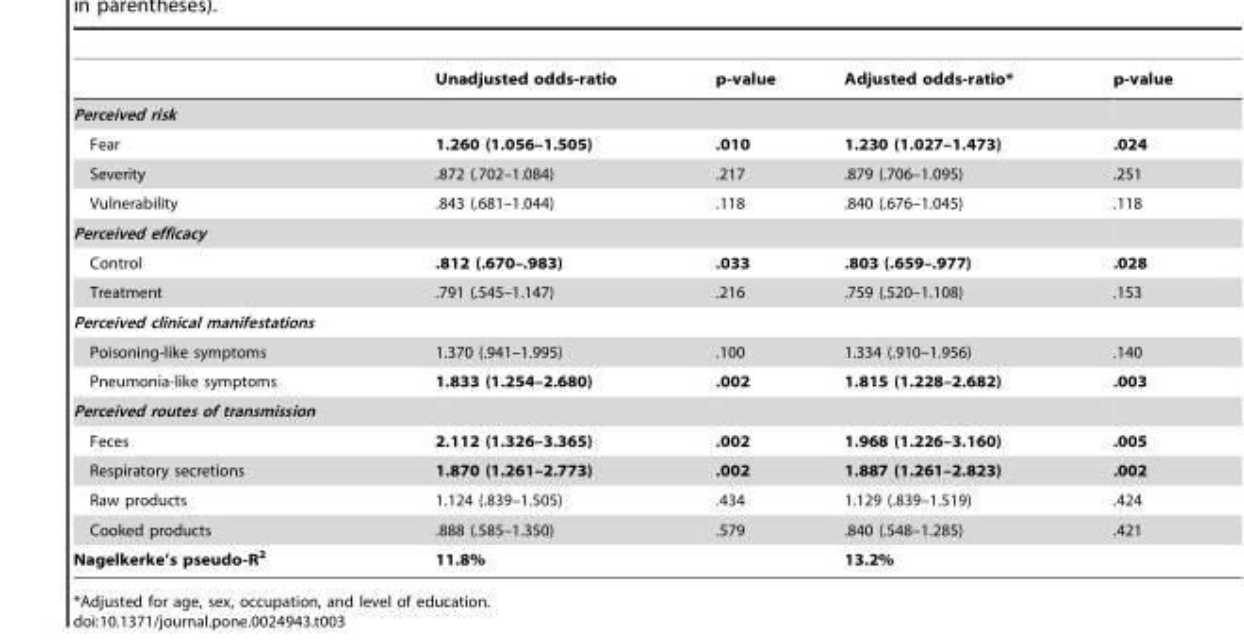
<table><thead><tr><td></td><td>Unadjusted odds-ratio</td><td>p-value</td><td>Adjusted odds-ratio*</td><td>p-value</td></tr></thead><tbody><tr><td colspan="5">Perceived risk</td></tr><tr><td>Fear</td><td>1.260 (1.056–1.505)</td><td>.010</td><td>1.230 (1.027–1.473)</td><td>.024</td></tr><tr><td>Severity</td><td>.872 (.702–1.084)</td><td>.217</td><td>.879 (.706–1.095)</td><td>.251</td></tr><tr><td>Vulnerability</td><td>.843 (.681–1.044)</td><td>.118</td><td>.840 (.676–1.045)</td><td>.118</td></tr><tr><td colspan="5">Perceived efficacy</td></tr><tr><td>Control</td><td>.812 (.670–.983)</td><td>.033</td><td>.803 (.659–.977)</td><td>.028</td></tr><tr><td>Treatment</td><td>.791 (.545–1.147)</td><td>.216</td><td>.759 (.520–1.108)</td><td>.153</td></tr><tr><td colspan="5">Perceived clinical manifestations</td></tr><tr><td>Poisoning-like symptoms</td><td>1.370 (.941–1.995)</td><td>.100</td><td>1.334 (.910–1.956)</td><td>.140</td></tr><tr><td>Pneumonia-like symptoms</td><td>1.833 (1.254–2.680)</td><td>.002</td><td>1.815 (1.228–2.682)</td><td>.003</td></tr><tr><td colspan="5">Perceived routes of transmission</td></tr><tr><td>Feces</td><td>2.112 (1.326–3.365)</td><td>.002</td><td>1.968 (1.226–3.160)</td><td>.005</td></tr><tr><td>Respiratory secretions</td><td>1.870 (1.261–2.773)</td><td>.002</td><td>1.887 (1.261–2.823)</td><td>.002</td></tr><tr><td>Raw products</td><td>1.124 (.839–1.505)</td><td>.434</td><td>1.129 (.839–1.519)</td><td>.424</td></tr><tr><td>Cooked products</td><td>.888 (.585–1.350)</td><td>.579</td><td>.840 (.548–1.285)</td><td>.421</td></tr><tr><td>Nagelkerke’s pseudo-R<sup>2</sup></td><td>11.8%</td><td></td><td>13.2%</td><td></td></tr></tbody></table>